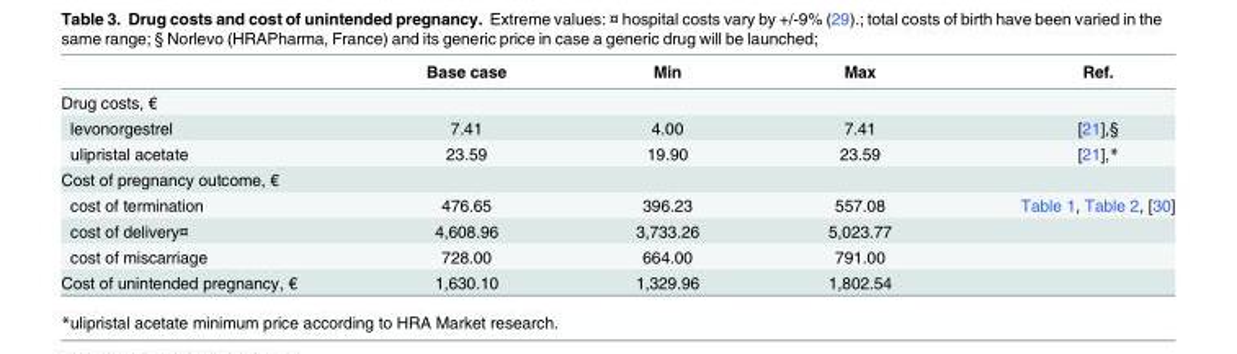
<table><thead><tr><td></td><td>Base case</td><td>Min</td><td>Max</td><td>Ref.</td></tr></thead><tbody><tr><td colspan="5">Drug costs, €</td></tr><tr><td>levonorgestrel</td><td>7.41</td><td>4.00</td><td>7.41</td><td>[21],§</td></tr><tr><td>ulipristal acetate</td><td>23.59</td><td>19.90</td><td>23.59</td><td>[21],*</td></tr><tr><td colspan="5">Cost of pregnancy outcome, €</td></tr><tr><td>cost of termination</td><td>476.65</td><td>396.23</td><td>557.08</td><td>Table 1, Table 2, [30]</td></tr><tr><td>cost of delivery¤</td><td>4,608.96</td><td>3,733.26</td><td>5,023.77</td><td></td></tr><tr><td>cost of miscarriage</td><td>728.00</td><td>664.00</td><td>791.00</td><td></td></tr><tr><td>Cost of unintended pregnancy, €</td><td>1,630.10</td><td>1,329.96</td><td>1,802.54</td><td></td></tr></tbody></table>